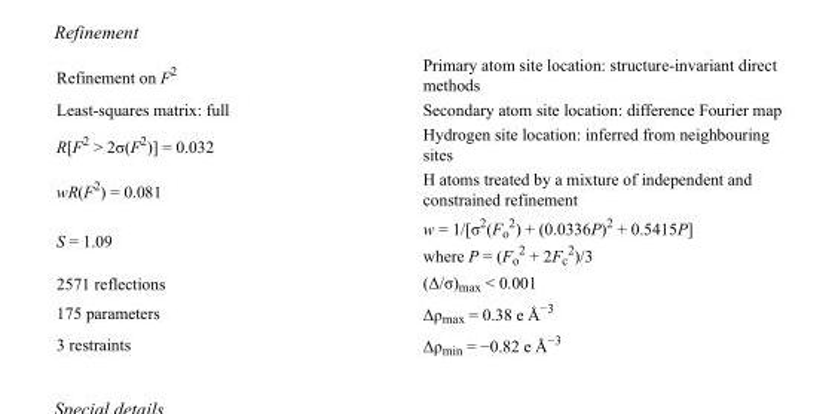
<table><tbody><tr><td>Refinement on F<sup>2</sup></td><td>Primary atom site location: structure-invariant direct methods</td></tr><tr><td>Least-squares matrix: full</td><td>Secondary atom site location: difference Fourier map</td></tr><tr><td>R[F<sup>2</sup> &gt; 2σ(F<sup>2</sup>)] = 0.032</td><td>Hydrogen site location: inferred from neighbouring sites</td></tr><tr><td>wR(F<sup>2</sup>) = 0.081</td><td>H atoms treated by a mixture of independent and constrained refinement</td></tr><tr><td>S = 1.09</td><td>w = 1/[σ<sup>2</sup>(F<sub>o</sub> <sup>2</sup>) + (0.0336P)<sup>2</sup> + 0.5415P] where P = (F<sub>o</sub> <sup>2</sup> + 2F<sub>c</sub> <sup>2</sup>)/3</td></tr><tr><td>2571 reflections</td><td>(Δ/σ)<sub>max</sub> &lt; 0.001</td></tr><tr><td>175 parameters</td><td>Δρ<sub>max</sub> = 0.38 e Å<sup>−3</sup></td></tr><tr><td>3 restraints</td><td>Δρ<sub>min</sub> = −0.82 e Å<sup>−3</sup></td></tr></tbody></table>